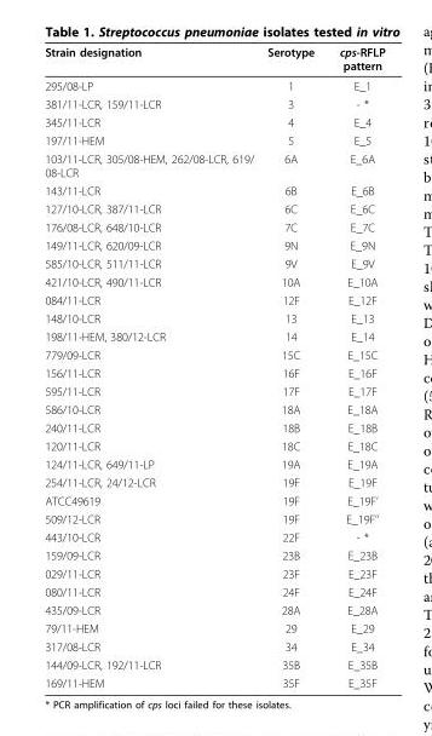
<table><thead><tr><td>Strain designation</td><td>Serotype</td><td>cps-RFLP pattern</td></tr></thead><tbody><tr><td>295/08-LP</td><td>1</td><td>E_1</td></tr><tr><td>381/11-LCR, 159/11-LCR</td><td>3</td><td>- *</td></tr><tr><td>345/11-LCR</td><td>4</td><td>E_4</td></tr><tr><td>197/11-HEM</td><td>5</td><td>E_5</td></tr><tr><td>103/11-LCR, 305/08-HEM, 262/08-LCR, 619/ 08-LCR</td><td>6A</td><td>E_6A</td></tr><tr><td>143/11-LCR</td><td>6B</td><td>E_6B</td></tr><tr><td>127/10-LCR, 387/11-LCR</td><td>6C</td><td>E_6C</td></tr><tr><td>176/08-LCR, 648/10-LCR</td><td>7C</td><td>E_7C</td></tr><tr><td>149/11-LCR, 620/09-LCR</td><td>9N</td><td>E_9N</td></tr><tr><td>585/10-LCR, 511/11-LCR</td><td>9V</td><td>E_9V</td></tr><tr><td>421/10-LCR, 490/11-LCR</td><td>10A</td><td>E_10A</td></tr><tr><td>084/11-LCR</td><td>12F</td><td>E_12F</td></tr><tr><td>148/10-LCR</td><td>13</td><td>E_13</td></tr><tr><td>198/11-HEM, 380/12-LCR</td><td>14</td><td>E_14</td></tr><tr><td>779/09-LCR</td><td>15C</td><td>E_15C</td></tr><tr><td>156/11-LCR</td><td>16F</td><td>E_16F</td></tr><tr><td>595/11-LCR</td><td>17F</td><td>E_17F</td></tr><tr><td>586/10-LCR</td><td>18A</td><td>E_18A</td></tr><tr><td>240/11-LCR</td><td>18B</td><td>E_18B</td></tr><tr><td>120/11-LCR</td><td>18C</td><td>E_18C</td></tr><tr><td>124/11-LCR, 649/11-LP</td><td>19A</td><td>E_19A</td></tr><tr><td>254/11-LCR, 24/12-LCR</td><td>19F</td><td>E_19F</td></tr><tr><td>ATCC49619</td><td>19F</td><td>E_19F’</td></tr><tr><td>509/12-LCR</td><td>19F</td><td>E_19F’’</td></tr><tr><td>443/10-LCR</td><td>22F</td><td>- *</td></tr><tr><td>159/09-LCR</td><td>23B</td><td>E_23B</td></tr><tr><td>029/11-LCR</td><td>23F</td><td>E_23F</td></tr><tr><td>080/11-LCR</td><td>24F</td><td>E_24F</td></tr><tr><td>435/09-LCR</td><td>28A</td><td>E_28A</td></tr><tr><td>79/11-HEM</td><td>29</td><td>E_29</td></tr><tr><td>317/08-LCR</td><td>34</td><td>E_34</td></tr><tr><td>144/09-LCR, 192/11-LCR</td><td>35B</td><td>E_35B</td></tr><tr><td>169/11-HEM</td><td>35F</td><td>E_35F</td></tr></tbody></table>